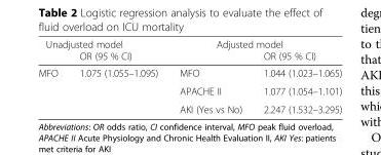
<table><thead><tr><td colspan="2">Unadjusted model</td><td colspan="2">Adjusted model</td></tr><tr><td></td><td>OR (95 % CI)</td><td></td><td>OR (95 % CI)</td></tr></thead><tbody><tr><td rowspan="3">MFO</td><td>1.075 (1.055–1.095)</td><td>MFO</td><td>1.044 (1.023–1.065)</td></tr><tr><td></td><td>APACHE II</td><td>1.077 (1.054–1.101)</td></tr><tr><td></td><td>AKI (Yes vs No)</td><td>2.247 (1.532–3.295)</td></tr></tbody></table>